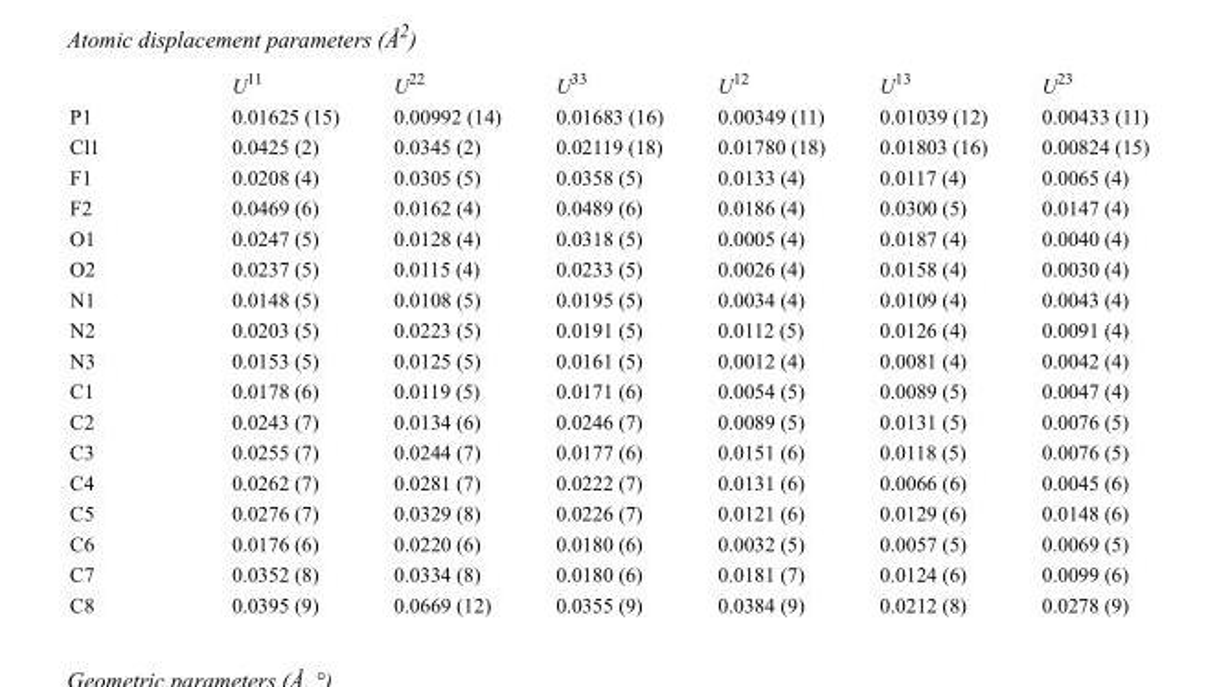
<table><thead><tr><td></td><td>U<sup>11</sup></td><td>U<sup>22</sup></td><td>U<sup>33</sup></td><td>U<sup>12</sup></td><td>U<sup>13</sup></td><td>U<sup>23</sup></td></tr></thead><tbody><tr><td>P1</td><td>0.01625 (15)</td><td>0.00992 (14)</td><td>0.01683 (16)</td><td>0.00349 (11)</td><td>0.01039 (12)</td><td>0.00433 (11)</td></tr><tr><td>Cl1</td><td>0.0425 (2)</td><td>0.0345 (2)</td><td>0.02119 (18)</td><td>0.01780 (18)</td><td>0.01803 (16)</td><td>0.00824 (15)</td></tr><tr><td>F1</td><td>0.0208 (4)</td><td>0.0305 (5)</td><td>0.0358 (5)</td><td>0.0133 (4)</td><td>0.0117 (4)</td><td>0.0065 (4)</td></tr><tr><td>F2</td><td>0.0469 (6)</td><td>0.0162 (4)</td><td>0.0489 (6)</td><td>0.0186 (4)</td><td>0.0300 (5)</td><td>0.0147 (4)</td></tr><tr><td>O1</td><td>0.0247 (5)</td><td>0.0128 (4)</td><td>0.0318 (5)</td><td>0.0005 (4)</td><td>0.0187 (4)</td><td>0.0040 (4)</td></tr><tr><td>O2</td><td>0.0237 (5)</td><td>0.0115 (4)</td><td>0.0233 (5)</td><td>0.0026 (4)</td><td>0.0158 (4)</td><td>0.0030 (4)</td></tr><tr><td>N1</td><td>0.0148 (5)</td><td>0.0108 (5)</td><td>0.0195 (5)</td><td>0.0034 (4)</td><td>0.0109 (4)</td><td>0.0043 (4)</td></tr><tr><td>N2</td><td>0.0203 (5)</td><td>0.0223 (5)</td><td>0.0191 (5)</td><td>0.0112 (5)</td><td>0.0126 (4)</td><td>0.0091 (4)</td></tr><tr><td>N3</td><td>0.0153 (5)</td><td>0.0125 (5)</td><td>0.0161 (5)</td><td>0.0012 (4)</td><td>0.0081 (4)</td><td>0.0042 (4)</td></tr><tr><td>C1</td><td>0.0178 (6)</td><td>0.0119 (5)</td><td>0.0171 (6)</td><td>0.0054 (5)</td><td>0.0089 (5)</td><td>0.0047 (4)</td></tr><tr><td>C2</td><td>0.0243 (7)</td><td>0.0134 (6)</td><td>0.0246 (7)</td><td>0.0089 (5)</td><td>0.0131 (5)</td><td>0.0076 (5)</td></tr><tr><td>C3</td><td>0.0255 (7)</td><td>0.0244 (7)</td><td>0.0177 (6)</td><td>0.0151 (6)</td><td>0.0118 (5)</td><td>0.0076 (5)</td></tr><tr><td>C4</td><td>0.0262 (7)</td><td>0.0281 (7)</td><td>0.0222 (7)</td><td>0.0131 (6)</td><td>0.0066 (6)</td><td>0.0045 (6)</td></tr><tr><td>C5</td><td>0.0276 (7)</td><td>0.0329 (8)</td><td>0.0226 (7)</td><td>0.0121 (6)</td><td>0.0129 (6)</td><td>0.0148 (6)</td></tr><tr><td>C6</td><td>0.0176 (6)</td><td>0.0220 (6)</td><td>0.0180 (6)</td><td>0.0032 (5)</td><td>0.0057 (5)</td><td>0.0069 (5)</td></tr><tr><td>C7</td><td>0.0352 (8)</td><td>0.0334 (8)</td><td>0.0180 (6)</td><td>0.0181 (7)</td><td>0.0124 (6)</td><td>0.0099 (6)</td></tr><tr><td>C8</td><td>0.0395 (9)</td><td>0.0669 (12)</td><td>0.0355 (9)</td><td>0.0384 (9)</td><td>0.0212 (8)</td><td>0.0278 (9)</td></tr></tbody></table>